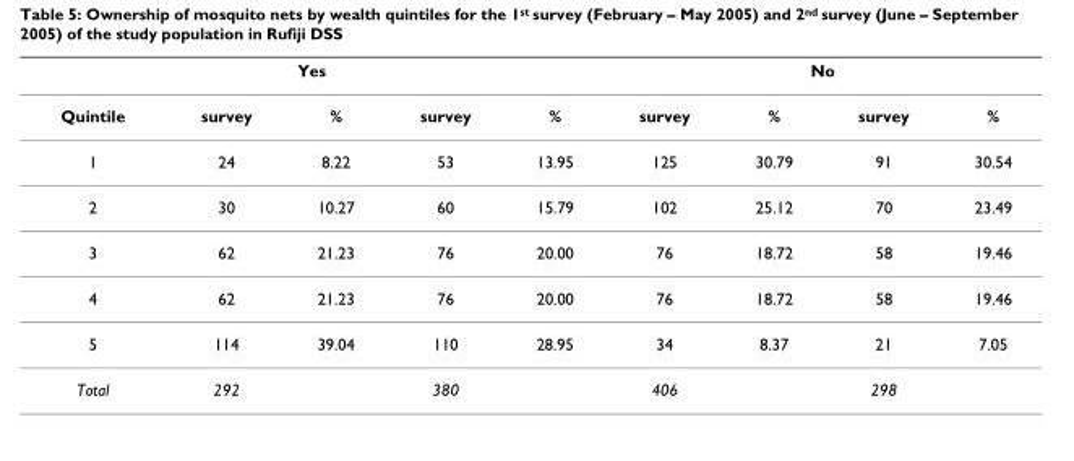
<table><thead><tr><td colspan="5">Yes</td><td colspan="4">No</td></tr><tr><td>Quintile</td><td>survey</td><td>%</td><td>survey</td><td>%</td><td>survey</td><td>%</td><td>survey</td><td>%</td></tr></thead><tbody><tr><td>1</td><td>24</td><td>8.22</td><td>53</td><td>13.95</td><td>125</td><td>30.79</td><td>91</td><td>30.54</td></tr><tr><td>2</td><td>30</td><td>10.27</td><td>60</td><td>15.79</td><td>102</td><td>25.12</td><td>70</td><td>23.49</td></tr><tr><td>3</td><td>62</td><td>21.23</td><td>76</td><td>20.00</td><td>76</td><td>18.72</td><td>58</td><td>19.46</td></tr><tr><td>4</td><td>62</td><td>21.23</td><td>76</td><td>20.00</td><td>76</td><td>18.72</td><td>58</td><td>19.46</td></tr><tr><td>5</td><td>114</td><td>39.04</td><td>110</td><td>28.95</td><td>34</td><td>8.37</td><td>21</td><td>7.05</td></tr><tr><td>Total</td><td>292</td><td></td><td>380</td><td></td><td>406</td><td></td><td>298</td><td></td></tr></tbody></table>